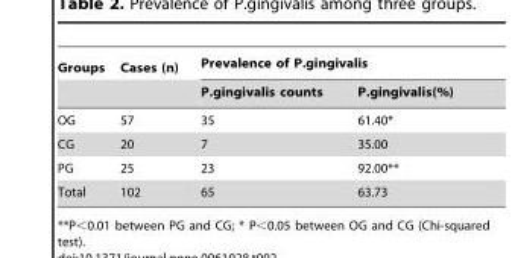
<table><thead><tr><td rowspan="2">Groups</td><td rowspan="2">Cases (n)</td><td colspan="2">Prevalence of P.gingivalis</td></tr><tr><td>P.gingivalis counts</td><td>P.gingivalis(%)</td></tr></thead><tbody><tr><td>OG</td><td>57</td><td>35</td><td>61.40*</td></tr><tr><td>CG</td><td>20</td><td>7</td><td>35.00</td></tr><tr><td>PG</td><td>25</td><td>23</td><td>92.00**</td></tr><tr><td>Total</td><td>102</td><td>65</td><td>63.73</td></tr></tbody></table>